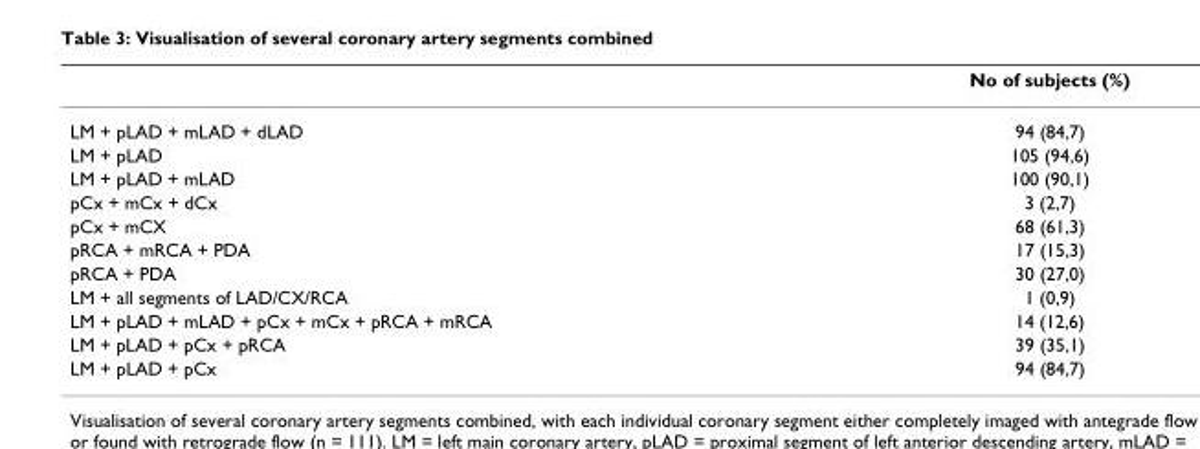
<table><thead><tr><td></td><td>No of subjects (%)</td></tr></thead><tbody><tr><td>LM + pLAD + mLAD + dLAD</td><td>94 (84,7)</td></tr><tr><td>LM + pLAD</td><td>105 (94,6)</td></tr><tr><td>LM + pLAD + mLAD</td><td>100 (90,1)</td></tr><tr><td>pCx + mCx + dCx</td><td>3 (2,7)</td></tr><tr><td>pCx + mCX</td><td>68 (61,3)</td></tr><tr><td>pRCA + mRCA + PDA</td><td>17 (15,3)</td></tr><tr><td>pRCA + PDA</td><td>30 (27,0)</td></tr><tr><td>LM + all segments of LAD/CX/RCA</td><td>1 (0,9)</td></tr><tr><td>LM + pLAD + mLAD + pCx + mCx + pRCA + mRCA</td><td>14 (12,6)</td></tr><tr><td>LM + pLAD + pCx + pRCA</td><td>39 (35,1)</td></tr><tr><td>LM + pLAD + pCx</td><td>94 (84,7)</td></tr></tbody></table>